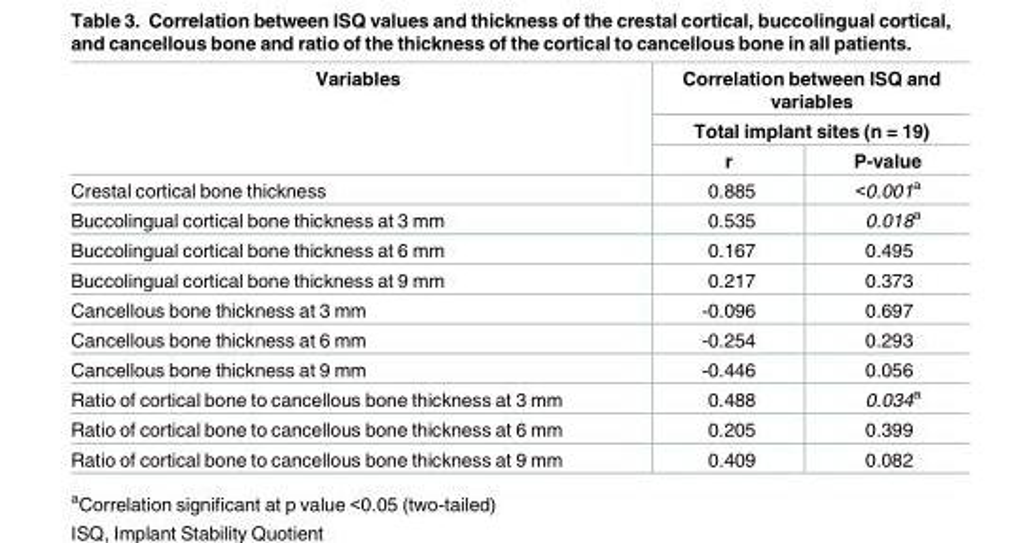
<table><thead><tr><td rowspan="3">Variables</td><td rowspan="2" colspan="2">Correlation between ISQ and variables Total implant sites (n = 19)</td></tr><tr></tr><tr><td>r</td><td>P-value</td></tr></thead><tbody><tr><td>Crestal cortical bone thickness</td><td>0.885</td><td>&lt;0.001<sup>a</sup></td></tr><tr><td>Buccolingual cortical bone thickness at 3 mm</td><td>0.535</td><td>0.018<sup>a</sup></td></tr><tr><td>Buccolingual cortical bone thickness at 6 mm</td><td>0.167</td><td>0.495</td></tr><tr><td>Buccolingual cortical bone thickness at 9 mm</td><td>0.217</td><td>0.373</td></tr><tr><td>Cancellous bone thickness at 3 mm</td><td>-0.096</td><td>0.697</td></tr><tr><td>Cancellous bone thickness at 6 mm</td><td>-0.254</td><td>0.293</td></tr><tr><td>Cancellous bone thickness at 9 mm</td><td>-0.446</td><td>0.056</td></tr><tr><td>Ratio of cortical bone to cancellous bone thickness at 3 mm</td><td>0.488</td><td>0.034<sup>a</sup></td></tr><tr><td>Ratio of cortical bone to cancellous bone thickness at 6 mm</td><td>0.205</td><td>0.399</td></tr><tr><td>Ratio of cortical bone to cancellous bone thickness at 9 mm</td><td>0.409</td><td>0.082</td></tr></tbody></table>